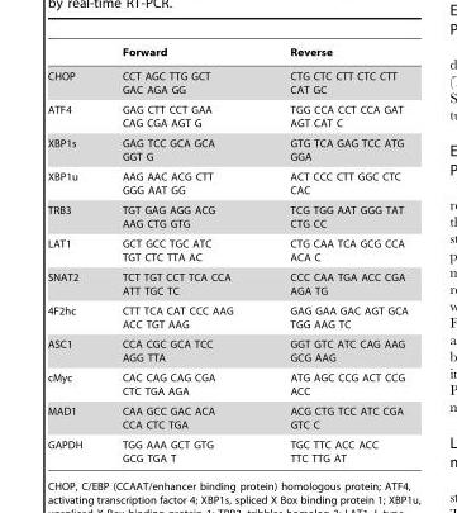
<table><thead><tr><td></td><td>Forward</td><td>Reverse</td></tr></thead><tbody><tr><td>CHOP</td><td>CCT AGC TTG GCT GAC AGA GG</td><td>CTG CTC CTT CTC CTT CAT GC</td></tr><tr><td>ATF4</td><td>GAG CTT CCT GAA CAG CGA AGT G</td><td>TGG CCA CCT CCA GAT AGT CAT C</td></tr><tr><td>XBP1s</td><td>GAG TCC GCA GCA GGT G</td><td>GTG TCA GAG TCC ATG GGA</td></tr><tr><td>XBP1u</td><td>AAG AAC ACG CTT GGG AAT GG</td><td>ACT CCC CTT GGC CTC CAC</td></tr><tr><td>TRB3</td><td>TGT GAG AGG ACG AAG CTG GTG</td><td>TCG TGG AAT GGG TAT CTG CC</td></tr><tr><td>LAT1</td><td>GCT GCC TGC ATC TGT CTC TTA AC</td><td>CTG CAA TCA GCG CCA ACA C</td></tr><tr><td>SNAT2</td><td>TCT TGT CCT TCA CCA ATT TGC TC</td><td>CCC CAA TGA ACC CGA AGA TG</td></tr><tr><td>4F2hc</td><td>CTT TCA CAT CCC AAG ACC TGT AAG</td><td>GAG GAA GAC AGT GCA TGG AAG TC</td></tr><tr><td>ASC1</td><td>CCA CGC GCA TCC AGG TTA</td><td>GGT GTC ATC CAG AAG GCG AAG</td></tr><tr><td>cMyc</td><td>CAC CAG CAG CGA CTC TGA AGA</td><td>ATG AGC CCG ACT CCG ACC</td></tr><tr><td>MAD1</td><td>CAA GCC GAC ACA CCA CTC TGA</td><td>ACG CTG TCC ATC CGA GTC C</td></tr><tr><td>GAPDH</td><td>TGG AAA GCT GTG GCG TGA T</td><td>TGC TTC ACC ACC TTC TTG AT</td></tr></tbody></table>